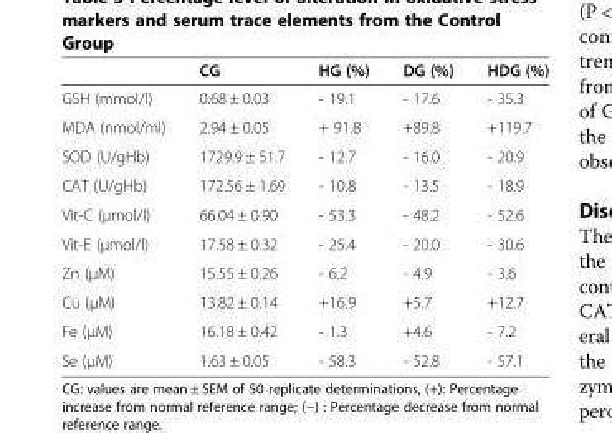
<table><thead><tr><td></td><td>CG</td><td>HG (%)</td><td>DG (%)</td><td>HDG (%)</td></tr></thead><tbody><tr><td>GSH (mmol/l)</td><td>0.68 ± 0.03</td><td>- 19.1</td><td>- 17.6</td><td>- 35.3</td></tr><tr><td>MDA (nmol/ml)</td><td>2.94 ± 0.05</td><td>+ 91.8</td><td>+89.8</td><td>+119.7</td></tr><tr><td>SOD (U/gHb)</td><td>1729.9 ± 51.7</td><td>- 12.7</td><td>- 16.0</td><td>- 20.9</td></tr><tr><td>CAT (U/gHb)</td><td>172.56 ± 1.69</td><td>- 10.8</td><td>- 13.5</td><td>- 18.9</td></tr><tr><td>Vit-C (μmol/l)</td><td>66.04 ± 0.90</td><td>- 53.3</td><td>- 48.2</td><td>- 52.6</td></tr><tr><td>Vit-E (μmol/l)</td><td>17.58 ± 0.32</td><td>- 25.4</td><td>- 20.0</td><td>- 30.6</td></tr><tr><td>Zn (μM)</td><td>15.55 ± 0.26</td><td>- 6.2</td><td>- 4.9</td><td>- 3.6</td></tr><tr><td>Cu (μM)</td><td>13.82 ± 0.14</td><td>+16.9</td><td>+5.7</td><td>+12.7</td></tr><tr><td>Fe (μM)</td><td>16.18 ± 0.42</td><td>- 1.3</td><td>+4.6</td><td>- 7.2</td></tr><tr><td>Se (μM)</td><td>1.63 ± 0.05</td><td>- 58.3</td><td>- 52.8</td><td>- 57.1</td></tr></tbody></table>